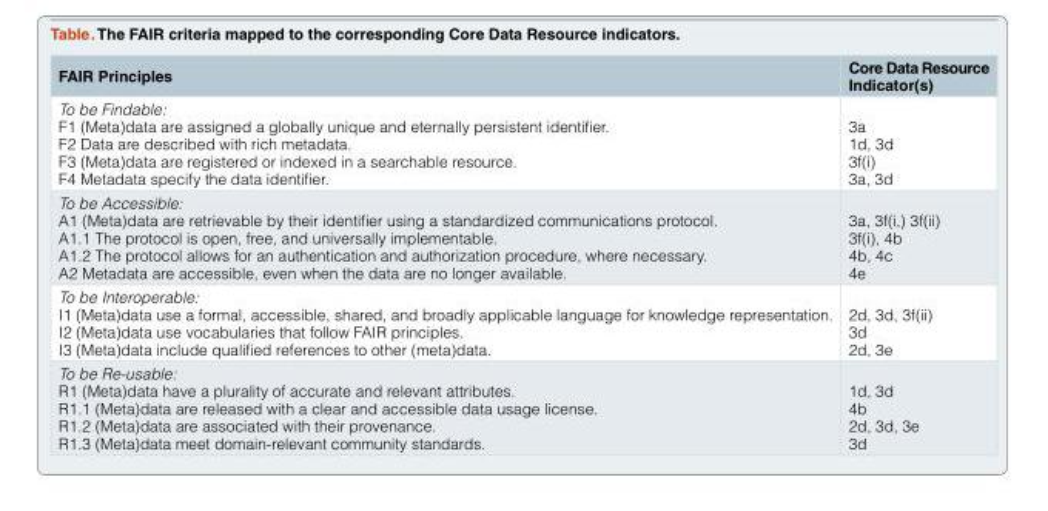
<table><thead><tr><td>FAIR Principles</td><td>Core Data Resource Indicator(s)</td></tr></thead><tbody><tr><td>To be Findable: F1 (Meta)data are assigned a globally unique and eternally persistent identifier. F2 Data are described with rich metadata. F3 (Meta)data are registered or indexed in a searchable resource. F4 Metadata specify the data identifier.</td><td>3a 1d, 3d 3f(i) 3a, 3d</td></tr><tr><td>To be Accessible: A1 (Meta)data are retrievable by their identifier using a standardized communications protocol. A1.1 The protocol is open, free, and universally implementable. A1.2 The protocol allows for an authentication and authorization procedure, where necessary. A2 Metadata are accessible, even when the data are no longer available.</td><td>3a, 3f(i,) 3f(ii) 3f(i), 4b 4b, 4c 4e</td></tr><tr><td>To be Interoperable: I1 (Meta)data use a formal, accessible, shared, and broadly applicable language for knowledge representation. I2 (Meta)data use vocabularies that follow FAIR principles. I3 (Meta)data include qualified references to other (meta)data.</td><td>2d, 3d, 3f(ii) 3d 2d, 3e</td></tr><tr><td>To be Re-usable: R1 (Meta)data have a plurality of accurate and relevant attributes. R1.1 (Meta)data are released with a clear and accessible data usage license. R1.2 (Meta)data are associated with their provenance. R1.3 (Meta)data meet domain-relevant community standards.</td><td>1d, 3d 4b 2d, 3d, 3e 3d</td></tr></tbody></table>